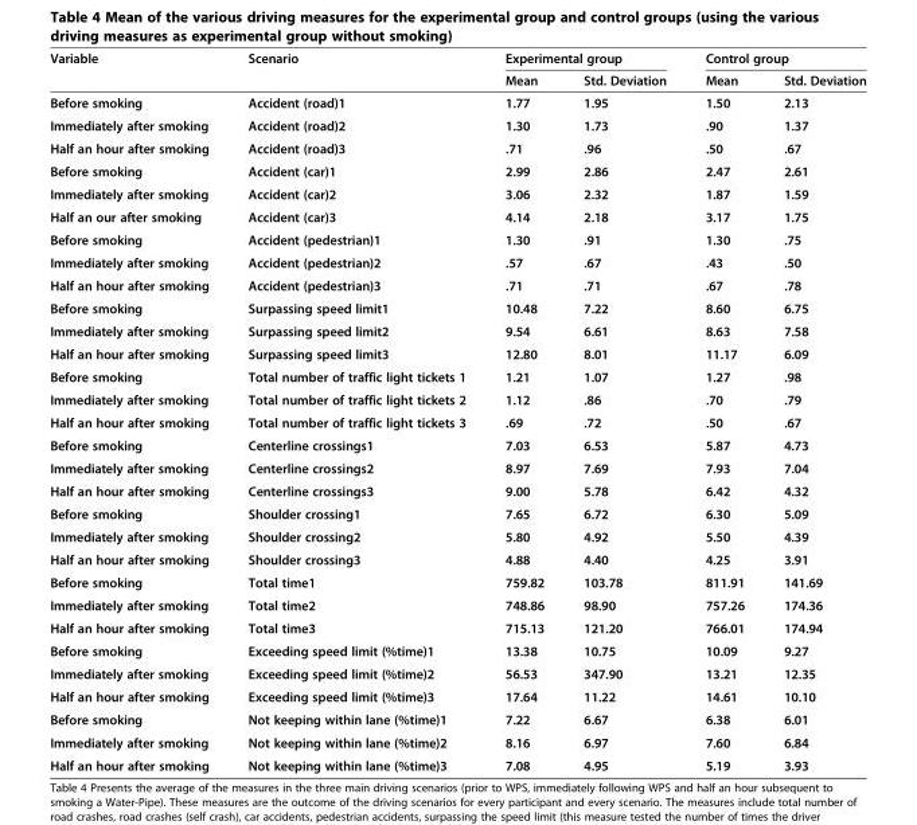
<table><thead><tr><td rowspan="2">Variable</td><td rowspan="2">Scenario</td><td colspan="2">Experimental group</td><td colspan="2">Control group</td></tr><tr><td>Mean</td><td>Std. Deviation</td><td>Mean</td><td>Std. Deviation</td></tr></thead><tbody><tr><td>Before smoking</td><td>Accident (road)1</td><td>1.77</td><td>1.95</td><td>1.50</td><td>2.13</td></tr><tr><td>Immediately after smoking</td><td>Accident (road)2</td><td>1.30</td><td>1.73</td><td>.90</td><td>1.37</td></tr><tr><td>Half an hour after smoking</td><td>Accident (road)3</td><td>.71</td><td>.96</td><td>.50</td><td>.67</td></tr><tr><td>Before smoking</td><td>Accident (car)1</td><td>2.99</td><td>2.86</td><td>2.47</td><td>2.61</td></tr><tr><td>Immediately after smoking</td><td>Accident (car)2</td><td>3.06</td><td>2.32</td><td>1.87</td><td>1.59</td></tr><tr><td>Half an our after smoking</td><td>Accident (car)3</td><td>4.14</td><td>2.18</td><td>3.17</td><td>1.75</td></tr><tr><td>Before smoking</td><td>Accident (pedestrian)1</td><td>1.30</td><td>.91</td><td>1.30</td><td>.75</td></tr><tr><td>Immediately after smoking</td><td>Accident (pedestrian)2</td><td>.57</td><td>.67</td><td>.43</td><td>.50</td></tr><tr><td>Half an hour after smoking</td><td>Accident (pedestrian)3</td><td>.71</td><td>.71</td><td>.67</td><td>.78</td></tr><tr><td>Before smoking</td><td>Surpassing speed limit1</td><td>10.48</td><td>7.22</td><td>8.60</td><td>6.75</td></tr><tr><td>Immediately after smoking</td><td>Surpassing speed limit2</td><td>9.54</td><td>6.61</td><td>8.63</td><td>7.58</td></tr><tr><td>Half an hour after smoking</td><td>Surpassing speed limit3</td><td>12.80</td><td>8.01</td><td>11.17</td><td>6.09</td></tr><tr><td>Before smoking</td><td>Total number of traffic light tickets 1</td><td>1.21</td><td>1.07</td><td>1.27</td><td>.98</td></tr><tr><td>Immediately after smoking</td><td>Total number of traffic light tickets 2</td><td>1.12</td><td>.86</td><td>.70</td><td>.79</td></tr><tr><td>Half an hour after smoking</td><td>Total number of traffic light tickets 3</td><td>.69</td><td>.72</td><td>.50</td><td>.67</td></tr><tr><td>Before smoking</td><td>Centerline crossings1</td><td>7.03</td><td>6.53</td><td>5.87</td><td>4.73</td></tr><tr><td>Immediately after smoking</td><td>Centerline crossings2</td><td>8.97</td><td>7.69</td><td>7.93</td><td>7.04</td></tr><tr><td>Half an hour after smoking</td><td>Centerline crossings3</td><td>9.00</td><td>5.78</td><td>6.42</td><td>4.32</td></tr><tr><td>Before smoking</td><td>Shoulder crossing1</td><td>7.65</td><td>6.72</td><td>6.30</td><td>5.09</td></tr><tr><td>Immediately after smoking</td><td>Shoulder crossing2</td><td>5.80</td><td>4.92</td><td>5.50</td><td>4.39</td></tr><tr><td>Half an hour after smoking</td><td>Shoulder crossing3</td><td>4.88</td><td>4.40</td><td>4.25</td><td>3.91</td></tr><tr><td>Before smoking</td><td>Total time1</td><td>759.82</td><td>103.78</td><td>811.91</td><td>141.69</td></tr><tr><td>Immediately after smoking</td><td>Total time2</td><td>748.86</td><td>98.90</td><td>757.26</td><td>174.36</td></tr><tr><td>Half an hour after smoking</td><td>Total time3</td><td>715.13</td><td>121.20</td><td>766.01</td><td>174.94</td></tr><tr><td>Before smoking</td><td>Exceeding speed limit (%time)1</td><td>13.38</td><td>10.75</td><td>10.09</td><td>9.27</td></tr><tr><td>Immediately after smoking</td><td>Exceeding speed limit (%time)2</td><td>56.53</td><td>347.90</td><td>13.21</td><td>12.35</td></tr><tr><td>Half an hour after smoking</td><td>Exceeding speed limit (%time)3</td><td>17.64</td><td>11.22</td><td>14.61</td><td>10.10</td></tr><tr><td>Before smoking</td><td>Not keeping within lane (%time)1</td><td>7.22</td><td>6.67</td><td>6.38</td><td>6.01</td></tr><tr><td>Immediately after smoking</td><td>Not keeping within lane (%time)2</td><td>8.16</td><td>6.97</td><td>7.60</td><td>6.84</td></tr><tr><td>Half an hour after smoking</td><td>Not keeping within lane (%time)3</td><td>7.08</td><td>4.95</td><td>5.19</td><td>3.93</td></tr></tbody></table>